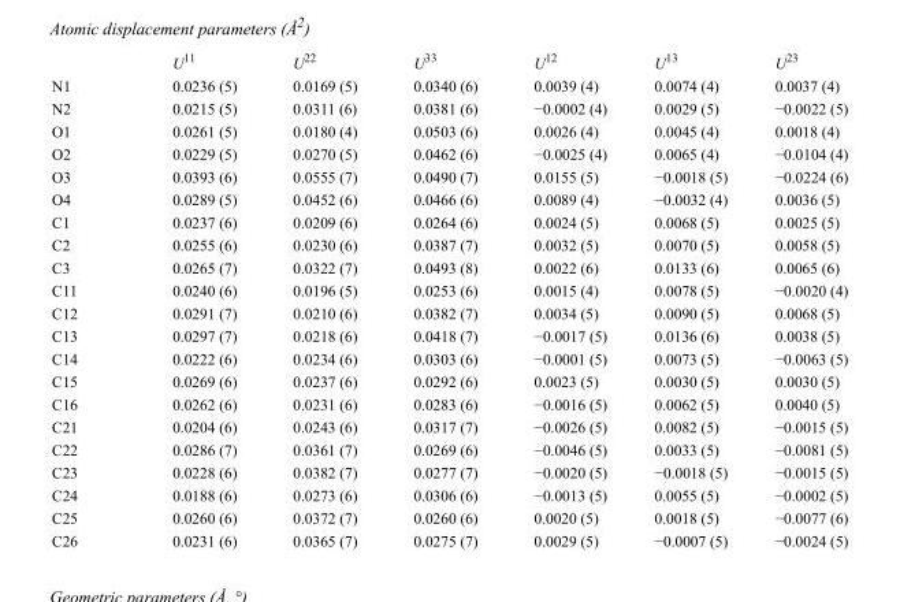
<table><thead><tr><td></td><td>U<sup>11</sup></td><td>U<sup>22</sup></td><td>U<sup>33</sup></td><td>U<sup>12</sup></td><td>U<sup>13</sup></td><td>U<sup>23</sup></td></tr></thead><tbody><tr><td>N1</td><td>0.0236 (5)</td><td>0.0169 (5)</td><td>0.0340 (6)</td><td>0.0039 (4)</td><td>0.0074 (4)</td><td>0.0037 (4)</td></tr><tr><td>N2</td><td>0.0215 (5)</td><td>0.0311 (6)</td><td>0.0381 (6)</td><td>−0.0002 (4)</td><td>0.0029 (5)</td><td>−0.0022 (5)</td></tr><tr><td>O1</td><td>0.0261 (5)</td><td>0.0180 (4)</td><td>0.0503 (6)</td><td>0.0026 (4)</td><td>0.0045 (4)</td><td>0.0018 (4)</td></tr><tr><td>O2</td><td>0.0229 (5)</td><td>0.0270 (5)</td><td>0.0462 (6)</td><td>−0.0025 (4)</td><td>0.0065 (4)</td><td>−0.0104 (4)</td></tr><tr><td>O3</td><td>0.0393 (6)</td><td>0.0555 (7)</td><td>0.0490 (7)</td><td>0.0155 (5)</td><td>−0.0018 (5)</td><td>−0.0224 (6)</td></tr><tr><td>O4</td><td>0.0289 (5)</td><td>0.0452 (6)</td><td>0.0466 (6)</td><td>0.0089 (4)</td><td>−0.0032 (4)</td><td>0.0036 (5)</td></tr><tr><td>C1</td><td>0.0237 (6)</td><td>0.0209 (6)</td><td>0.0264 (6)</td><td>0.0024 (5)</td><td>0.0068 (5)</td><td>0.0025 (5)</td></tr><tr><td>C2</td><td>0.0255 (6)</td><td>0.0230 (6)</td><td>0.0387 (7)</td><td>0.0032 (5)</td><td>0.0070 (5)</td><td>0.0058 (5)</td></tr><tr><td>C3</td><td>0.0265 (7)</td><td>0.0322 (7)</td><td>0.0493 (8)</td><td>0.0022 (6)</td><td>0.0133 (6)</td><td>0.0065 (6)</td></tr><tr><td>C11</td><td>0.0240 (6)</td><td>0.0196 (5)</td><td>0.0253 (6)</td><td>0.0015 (4)</td><td>0.0078 (5)</td><td>−0.0020 (4)</td></tr><tr><td>C12</td><td>0.0291 (7)</td><td>0.0210 (6)</td><td>0.0382 (7)</td><td>0.0034 (5)</td><td>0.0090 (5)</td><td>0.0068 (5)</td></tr><tr><td>C13</td><td>0.0297 (7)</td><td>0.0218 (6)</td><td>0.0418 (7)</td><td>−0.0017 (5)</td><td>0.0136 (6)</td><td>0.0038 (5)</td></tr><tr><td>C14</td><td>0.0222 (6)</td><td>0.0234 (6)</td><td>0.0303 (6)</td><td>−0.0001 (5)</td><td>0.0073 (5)</td><td>−0.0063 (5)</td></tr><tr><td>C15</td><td>0.0269 (6)</td><td>0.0237 (6)</td><td>0.0292 (6)</td><td>0.0023 (5)</td><td>0.0030 (5)</td><td>0.0030 (5)</td></tr><tr><td>C16</td><td>0.0262 (6)</td><td>0.0231 (6)</td><td>0.0283 (6)</td><td>−0.0016 (5)</td><td>0.0062 (5)</td><td>0.0040 (5)</td></tr><tr><td>C21</td><td>0.0204 (6)</td><td>0.0243 (6)</td><td>0.0317 (7)</td><td>−0.0026 (5)</td><td>0.0082 (5)</td><td>−0.0015 (5)</td></tr><tr><td>C22</td><td>0.0286 (7)</td><td>0.0361 (7)</td><td>0.0269 (6)</td><td>−0.0046 (5)</td><td>0.0033 (5)</td><td>−0.0081 (5)</td></tr><tr><td>C23</td><td>0.0228 (6)</td><td>0.0382 (7)</td><td>0.0277 (7)</td><td>−0.0020 (5)</td><td>−0.0018 (5)</td><td>−0.0015 (5)</td></tr><tr><td>C24</td><td>0.0188 (6)</td><td>0.0273 (6)</td><td>0.0306 (6)</td><td>−0.0013 (5)</td><td>0.0055 (5)</td><td>−0.0002 (5)</td></tr><tr><td>C25</td><td>0.0260 (6)</td><td>0.0372 (7)</td><td>0.0260 (6)</td><td>0.0020 (5)</td><td>0.0018 (5)</td><td>−0.0077 (6)</td></tr><tr><td>C26</td><td>0.0231 (6)</td><td>0.0365 (7)</td><td>0.0275 (7)</td><td>0.0029 (5)</td><td>−0.0007 (5)</td><td>−0.0024 (5)</td></tr></tbody></table>